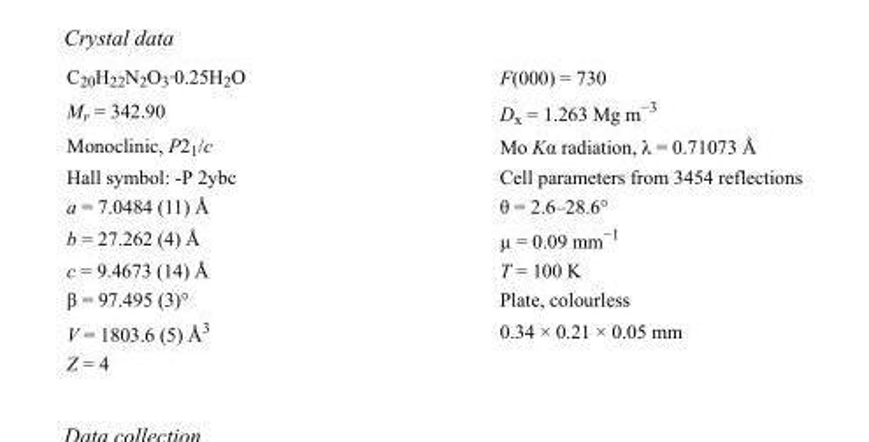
<table><tbody><tr><td>C<sub>20</sub>H<sub>22</sub>N<sub>2</sub>O<sub>3</sub>·0.25H<sub>2</sub>O</td><td>F(000) = 730</td></tr><tr><td>M<sub>r</sub> = 342.90</td><td>D<sub>x</sub> = 1.263 Mg m<sup>−3</sup></td></tr><tr><td>Monoclinic, P2<sub>1</sub>/c</td><td>Mo Kα radiation, λ = 0.71073 Å</td></tr><tr><td>Hall symbol: -P 2ybc</td><td>Cell parameters from 3454 reflections</td></tr><tr><td>a = 7.0484 (11) Å</td><td>θ = 2.6–28.6°</td></tr><tr><td>b = 27.262 (4) Å</td><td>µ = 0.09 mm<sup>−1</sup></td></tr><tr><td>c = 9.4673 (14) Å</td><td>T = 100 K</td></tr><tr><td>β = 97.495 (3)°</td><td>Plate, colourless</td></tr><tr><td>V = 1803.6 (5) Å<sup>3</sup></td><td>0.34 × 0.21 × 0.05 mm</td></tr><tr><td>Z = 4</td><td></td></tr></tbody></table>